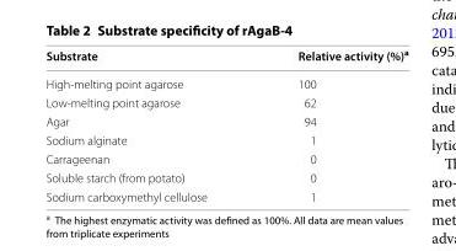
<table><thead><tr><td>Substrate</td><td>Relative activity (%)<sup>a</sup></td></tr></thead><tbody><tr><td>High‑melting point agarose</td><td>100</td></tr><tr><td>Low‑melting point agarose</td><td>62</td></tr><tr><td>Agar</td><td>94</td></tr><tr><td>Sodium alginate</td><td>1</td></tr><tr><td>Carrageenan</td><td>0</td></tr><tr><td>Soluble starch (from potato)</td><td>0</td></tr><tr><td>Sodium carboxymethyl cellulose</td><td>1</td></tr></tbody></table>